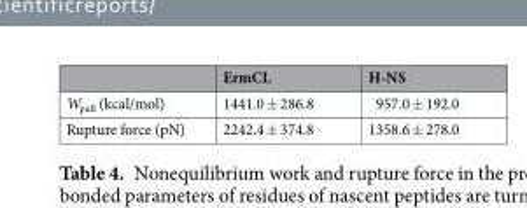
<table><thead><tr><td></td><td>ErmCL</td><td>H-NS</td></tr></thead><tbody><tr><td>W<sub>pull</sub> (kcal/mol)</td><td>1441.0 ± 286.8</td><td>957.0 ± 192.0</td></tr><tr><td>Rupture force (pN)</td><td>2242.4 ± 374.8</td><td>1358.6 ± 278.0</td></tr></tbody></table>